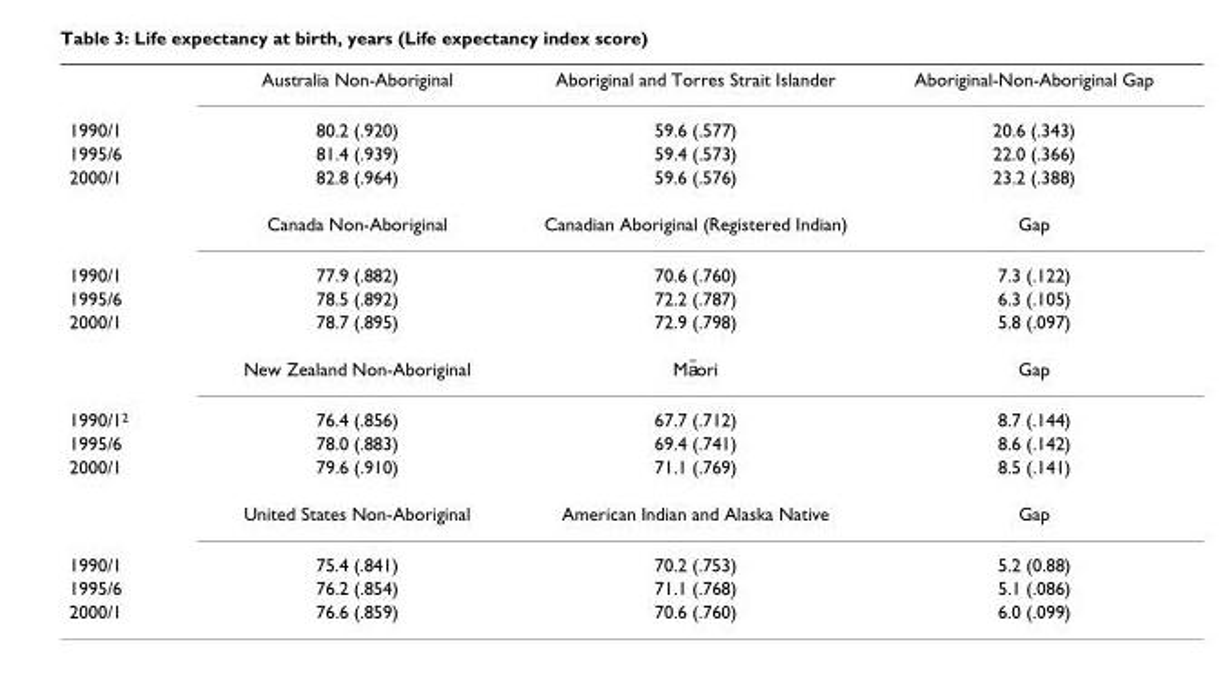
<table><thead><tr><td></td><td>Australia Non-Aboriginal</td><td>Aboriginal and Torres Strait Islander</td><td>Aboriginal-Non-Aboriginal Gap</td></tr></thead><tbody><tr><td>1990/1</td><td>80.2 (.920)</td><td>59.6 (.577)</td><td>20.6 (.343)</td></tr><tr><td>1995/6</td><td>81.4 (.939)</td><td>59.4 (.573)</td><td>22.0 (.366)</td></tr><tr><td rowspan="2">2000/1</td><td>82.8 (.964)</td><td>59.6 (.576)</td><td>23.2 (.388)</td></tr><tr><td>Canada Non-Aboriginal</td><td>Canadian Aboriginal (Registered Indian)</td><td>Gap</td></tr><tr><td>1990/1</td><td>77.9 (.882)</td><td>70.6 (.760)</td><td>7.3 (.122)</td></tr><tr><td>1995/6</td><td>78.5 (.892)</td><td>72.2 (.787)</td><td>6.3 (.105)</td></tr><tr><td rowspan="2">2000/1</td><td>78.7 (.895)</td><td>72.9 (.798)</td><td>5.8 (.097)</td></tr><tr><td>New Zealand Non-Aboriginal</td><td>Ma¯ori</td><td>Gap</td></tr><tr><td>1990/1<sup>2</sup></td><td>76.4 (.856)</td><td>67.7 (.712)</td><td>8.7 (.144)</td></tr><tr><td>1995/6</td><td>78.0 (.883)</td><td>69.4 (.741)</td><td>8.6 (.142)</td></tr><tr><td rowspan="2">2000/1</td><td>79.6 (.910)</td><td>71.1 (.769)</td><td>8.5 (.141)</td></tr><tr><td>United States Non-Aboriginal</td><td>American Indian and Alaska Native</td><td>Gap</td></tr><tr><td>1990/1</td><td>75.4 (.841)</td><td>70.2 (.753)</td><td>5.2 (0.88)</td></tr><tr><td>1995/6</td><td>76.2 (.854)</td><td>71.1 (.768)</td><td>5.1 (.086)</td></tr><tr><td>2000/1</td><td>76.6 (.859)</td><td>70.6 (.760)</td><td>6.0 (.099)</td></tr></tbody></table>